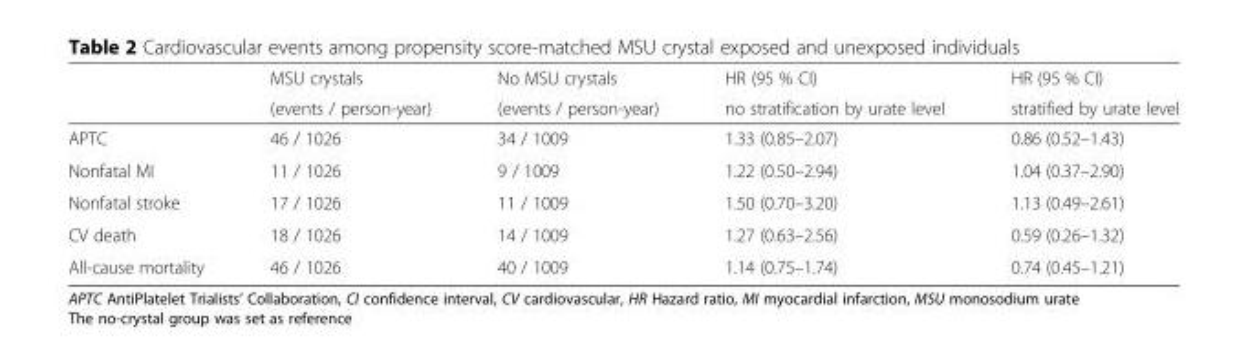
<table><thead><tr><td rowspan="2"></td><td rowspan="2">MSU crystals (events / person-year)</td><td rowspan="2">No MSU crystals (events / person-year)</td><td rowspan="2">HR (95 % CI) no stratification by urate level</td><td rowspan="2">HR (95 % CI) stratified by urate level</td></tr><tr></tr></thead><tbody><tr><td>APTC</td><td>46 / 1026</td><td>34 / 1009</td><td>1.33 (0.85–2.07)</td><td>0.86 (0.52–1.43)</td></tr><tr><td>Nonfatal MI</td><td>11 / 1026</td><td>9 / 1009</td><td>1.22 (0.50–2.94)</td><td>1.04 (0.37–2.90)</td></tr><tr><td>Nonfatal stroke</td><td>17 / 1026</td><td>11 / 1009</td><td>1.50 (0.70–3.20)</td><td>1.13 (0.49–2.61)</td></tr><tr><td>CV death</td><td>18 / 1026</td><td>14 / 1009</td><td>1.27 (0.63–2.56)</td><td>0.59 (0.26–1.32)</td></tr><tr><td>All-cause mortality</td><td>46 / 1026</td><td>40 / 1009</td><td>1.14 (0.75–1.74)</td><td>0.74 (0.45–1.21)</td></tr></tbody></table>